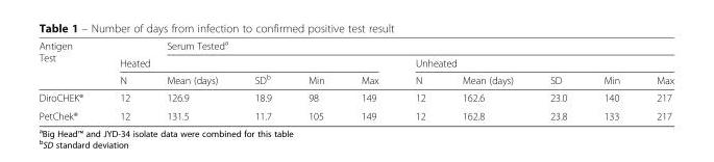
<table><thead><tr><td rowspan="3">Antigen Test</td><td></td><td colspan="9">Serum Tested<sup>a</sup></td></tr><tr><td colspan="5">Heated</td><td colspan="5">Unheated</td></tr><tr><td>N</td><td>Mean (days)</td><td>SD<sup>b</sup></td><td>Min</td><td>Max</td><td>N</td><td>Mean (days)</td><td>SD</td><td>Min</td><td>Max</td></tr></thead><tbody><tr><td>DiroCHEK®</td><td>12</td><td>126.9</td><td>18.9</td><td>98</td><td>149</td><td>12</td><td>162.6</td><td>23.0</td><td>140</td><td>217</td></tr><tr><td>PetChek®</td><td>12</td><td>131.5</td><td>11.7</td><td>105</td><td>149</td><td>12</td><td>162.8</td><td>23.8</td><td>133</td><td>217</td></tr></tbody></table>